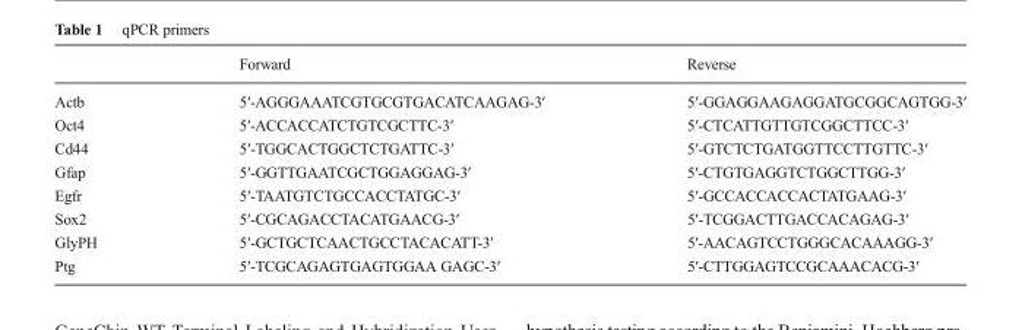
<table><thead><tr><td></td><td>Forward</td><td>Reverse</td></tr></thead><tbody><tr><td>Actb</td><td>5′-AGGGAAATCGTGCGTGACATCAAGAG-3′</td><td>5′-GGAGGAAGAGGATGCGGCAGTGG-3′</td></tr><tr><td>Oct4</td><td>5′-ACCACCATCTGTCGCTTC-3′</td><td>5′-CTCATTGTTGTCGGCTTCC-3′</td></tr><tr><td>Cd44</td><td>5′-TGGCACTGGCTCTGATTC-3′</td><td>5′-GTCTCTGATGGTTCCTTGTTC-3′</td></tr><tr><td>Gfap</td><td>5′-GGTTGAATCGCTGGAGGAG-3′</td><td>5′-CTGTGAGGTCTGGCTTGG-3′</td></tr><tr><td>Egfr</td><td>5′-TAATGTCTGCCACCTATGC-3′</td><td>5′-GCCACCACCACTATGAAG-3′</td></tr><tr><td>Sox2</td><td>5′-CGCAGACCTACATGAACG-3′</td><td>5′-TCGGACTTGACCACAGAG-3′</td></tr><tr><td>GlyPH</td><td>5′-GCTGCTCAACTGCCTACACATT-3′</td><td>5′-AACAGTCCTGGGCACAAAGG-3′</td></tr><tr><td>Ptg</td><td>5′-TCGCAGAGTGAGTGGAA GAGC-3′</td><td>5′-CTTGGAGTCCGCAAACACG-3′</td></tr></tbody></table>